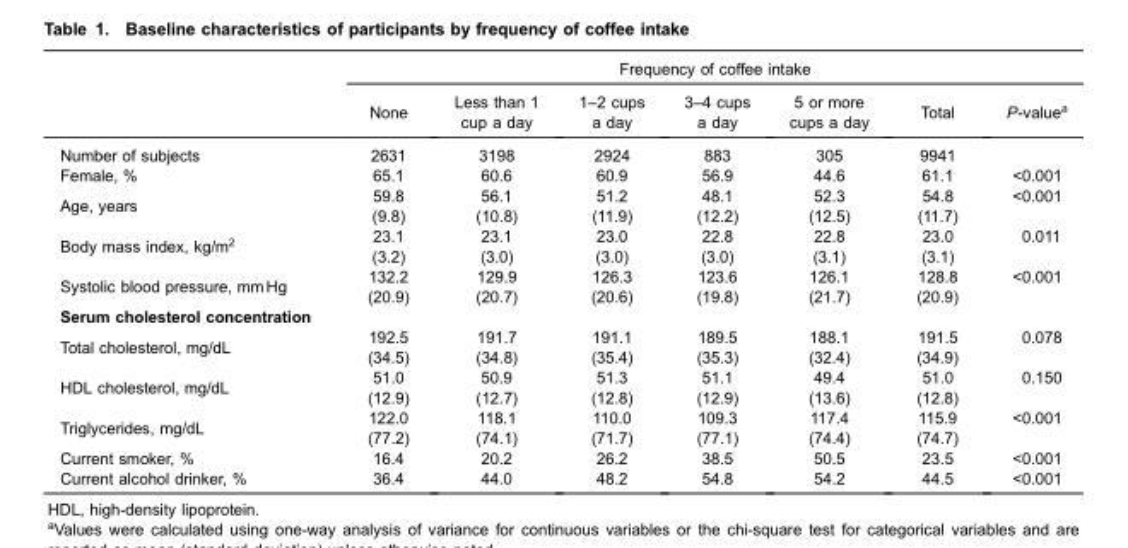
<table><thead><tr><td rowspan="2"></td><td colspan="7">Frequency of coffee intake</td></tr><tr><td>None</td><td>Less than 1 cup a day</td><td>1–2 cups a day</td><td>3–4 cups a day</td><td>5 or more cups a day</td><td>Total</td><td>P-value<sup>a</sup></td></tr></thead><tbody><tr><td>Number of subjects</td><td>2631</td><td>3198</td><td>2924</td><td>883</td><td>305</td><td>9941</td><td></td></tr><tr><td>Female, %</td><td>65.1</td><td>60.6</td><td>60.9</td><td>56.9</td><td>44.6</td><td>61.1</td><td>&lt;0.001</td></tr><tr><td rowspan="2">Age, years</td><td>59.8</td><td>56.1</td><td>51.2</td><td>48.1</td><td>52.3</td><td>54.8</td><td>&lt;0.001</td></tr><tr><td>(9.8)</td><td>(10.8)</td><td>(11.9)</td><td>(12.2)</td><td>(12.5)</td><td>(11.7)</td><td></td></tr><tr><td rowspan="2">Body mass index, kg/m<sup>2</sup></td><td>23.1</td><td>23.1</td><td>23.0</td><td>22.8</td><td>22.8</td><td>23.0</td><td>0.011</td></tr><tr><td>(3.2)</td><td>(3.0)</td><td>(3.0)</td><td>(3.0)</td><td>(3.1)</td><td>(3.1)</td><td></td></tr><tr><td rowspan="2">Systolic blood pressure, mm Hg</td><td>132.2</td><td>129.9</td><td>126.3</td><td>123.6</td><td>126.1</td><td>128.8</td><td>&lt;0.001</td></tr><tr><td>(20.9)</td><td>(20.7)</td><td>(20.6)</td><td>(19.8)</td><td>(21.7)</td><td>(20.9)</td><td></td></tr><tr><td colspan="8">Serum cholesterol concentration</td></tr><tr><td rowspan="2">Total cholesterol, mg/dL</td><td>192.5</td><td>191.7</td><td>191.1</td><td>189.5</td><td>188.1</td><td>191.5</td><td>0.078</td></tr><tr><td>(34.5)</td><td>(34.8)</td><td>(35.4)</td><td>(35.3)</td><td>(32.4)</td><td>(34.9)</td><td></td></tr><tr><td rowspan="2">HDL cholesterol, mg/dL</td><td>51.0</td><td>50.9</td><td>51.3</td><td>51.1</td><td>49.4</td><td>51.0</td><td>0.150</td></tr><tr><td>(12.9)</td><td>(12.7)</td><td>(12.8)</td><td>(12.9)</td><td>(13.6)</td><td>(12.8)</td><td></td></tr><tr><td rowspan="2">Triglycerides, mg/dL</td><td>122.0</td><td>118.1</td><td>110.0</td><td>109.3</td><td>117.4</td><td>115.9</td><td>&lt;0.001</td></tr><tr><td>(77.2)</td><td>(74.1)</td><td>(71.7)</td><td>(77.1)</td><td>(74.4)</td><td>(74.7)</td><td></td></tr><tr><td>Current smoker, %</td><td>16.4</td><td>20.2</td><td>26.2</td><td>38.5</td><td>50.5</td><td>23.5</td><td>&lt;0.001</td></tr><tr><td>Current alcohol drinker, %</td><td>36.4</td><td>44.0</td><td>48.2</td><td>54.8</td><td>54.2</td><td>44.5</td><td>&lt;0.001</td></tr></tbody></table>